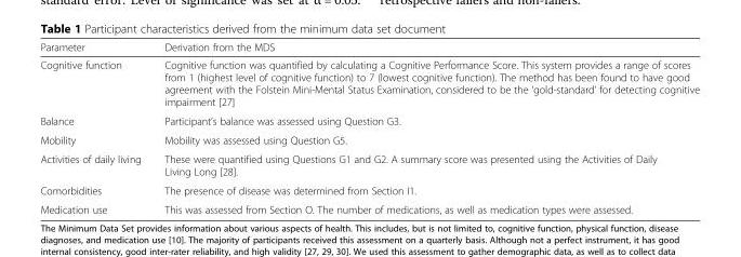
<table><thead><tr><td>Parameter</td><td>Derivation from the MDS</td></tr></thead><tbody><tr><td>Cognitive function</td><td>Cognitive function was quantified by calculating a Cognitive Performance Score. This system provides a range of scores from 1 (highest level of cognitive function) to 7 (lowest cognitive function). The method has been found to have good agreement with the Folstein Mini-Mental Status Examination, considered to be the ‘gold-standard’ for detecting cognitive impairment [27]</td></tr><tr><td>Balance</td><td>Participant’s balance was assessed using Question G3.</td></tr><tr><td>Mobility</td><td>Mobility was assessed using Question G5.</td></tr><tr><td>Activities of daily living</td><td>These were quantified using Questions G1 and G2. A summary score was presented using the Activities of Daily Living Long [28].</td></tr><tr><td>Comorbidities</td><td>The presence of disease was determined from Section I1.</td></tr><tr><td>Medication use</td><td>This was assessed from Section O. The number of medications, as well as medication types were assessed.</td></tr></tbody></table>